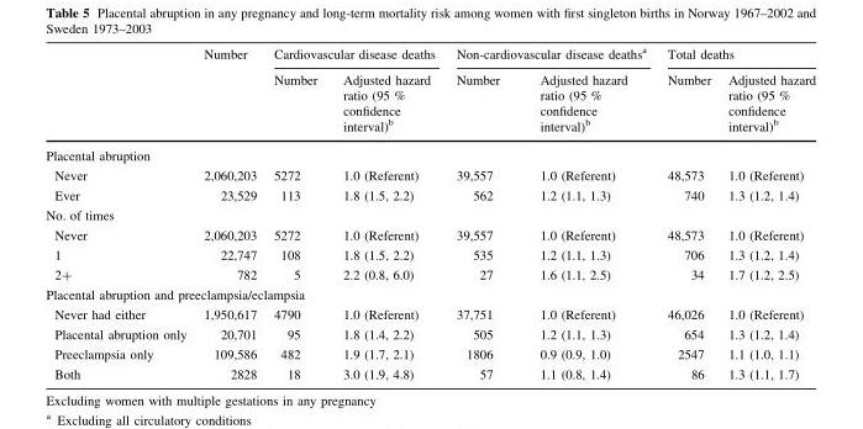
<table><thead><tr><td rowspan="2"></td><td rowspan="2">Number</td><td colspan="2">Cardiovascular disease deaths</td><td colspan="2">Non-cardiovascular disease deaths<sup>a</sup></td><td colspan="2">Total deaths</td></tr><tr><td>Number</td><td>Adjusted hazard ratio (95 % confidence interval)<sup>b</sup></td><td>Number</td><td>Adjusted hazard ratio (95 % confidence interval)<sup>b</sup></td><td>Number</td><td>Adjusted hazard ratio (95 % confidence interval)<sup>b</sup></td></tr></thead><tbody><tr><td colspan="8">Placental abruption</td></tr><tr><td>Never</td><td>2,060,203</td><td>5272</td><td>1.0 (Referent)</td><td>39,557</td><td>1.0 (Referent)</td><td>48,573</td><td>1.0 (Referent)</td></tr><tr><td>Ever</td><td>23,529</td><td>113</td><td>1.8 (1.5, 2.2)</td><td>562</td><td>1.2 (1.1, 1.3)</td><td>740</td><td>1.3 (1.2, 1.4)</td></tr><tr><td colspan="8">No. of times</td></tr><tr><td>Never</td><td>2,060,203</td><td>5272</td><td>1.0 (Referent)</td><td>39,557</td><td>1.0 (Referent)</td><td>48,573</td><td>1.0 (Referent)</td></tr><tr><td>1</td><td>22,747</td><td>108</td><td>1.8 (1.5, 2.2)</td><td>535</td><td>1.2 (1.1, 1.3)</td><td>706</td><td>1.3 (1.2, 1.4)</td></tr><tr><td>2+</td><td>782</td><td>5</td><td>2.2 (0.8, 6.0)</td><td>27</td><td>1.6 (1.1, 2.5)</td><td>34</td><td>1.7 (1.2, 2.5)</td></tr><tr><td colspan="8">Placental abruption and preeclampsia/eclampsia</td></tr><tr><td>Never had either</td><td>1,950,617</td><td>4790</td><td>1.0 (Referent)</td><td>37,751</td><td>1.0 (Referent)</td><td>46,026</td><td>1.0 (Referent)</td></tr><tr><td>Placental abruption only</td><td>20,701</td><td>95</td><td>1.8 (1.4, 2.2)</td><td>505</td><td>1.2 (1.1, 1.3)</td><td>654</td><td>1.3 (1.2, 1.4)</td></tr><tr><td>Preeclampsia only</td><td>109,586</td><td>482</td><td>1.9 (1.7, 2.1)</td><td>1806</td><td>0.9 (0.9, 1.0)</td><td>2547</td><td>1.1 (1.0, 1.1)</td></tr><tr><td>Both</td><td>2828</td><td>18</td><td>3.0 (1.9, 4.8)</td><td>57</td><td>1.1 (0.8, 1.4)</td><td>86</td><td>1.3 (1.1, 1.7)</td></tr></tbody></table>